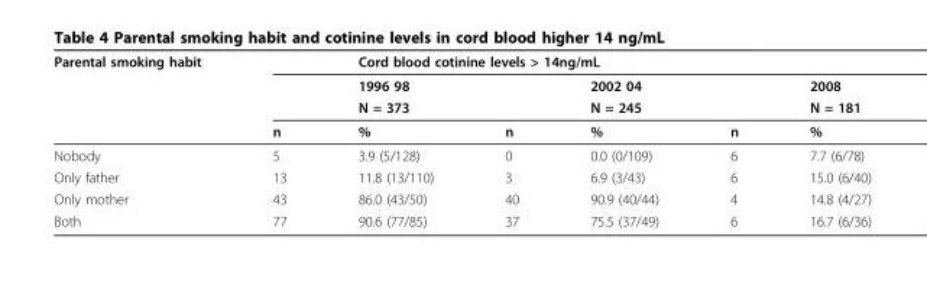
<table><thead><tr><td rowspan="4">Parental smoking habit</td><td rowspan="4">n</td><td colspan="5">Cord blood cotinine levels &gt; 14ng/mL</td></tr><tr><td rowspan="3">1996 98 N = 373 %</td><td rowspan="3">n</td><td rowspan="3">2002 04 N = 245 %</td><td rowspan="3">n</td><td rowspan="3">2008 N = 181 %</td></tr><tr></tr><tr></tr></thead><tbody><tr><td>Nobody</td><td>5</td><td>3.9 (5/128)</td><td>0</td><td>0.0 (0/109)</td><td>6</td><td>7.7 (6/78)</td></tr><tr><td>Only father</td><td>13</td><td>11.8 (13/110)</td><td>3</td><td>6.9 (3/43)</td><td>6</td><td>15.0 (6/40)</td></tr><tr><td>Only mother</td><td>43</td><td>86.0 (43/50)</td><td>40</td><td>90.9 (40/44)</td><td>4</td><td>14.8 (4/27)</td></tr><tr><td>Both</td><td>77</td><td>90.6 (77/85)</td><td>37</td><td>75.5 (37/49)</td><td>6</td><td>16.7 (6/36)</td></tr></tbody></table>